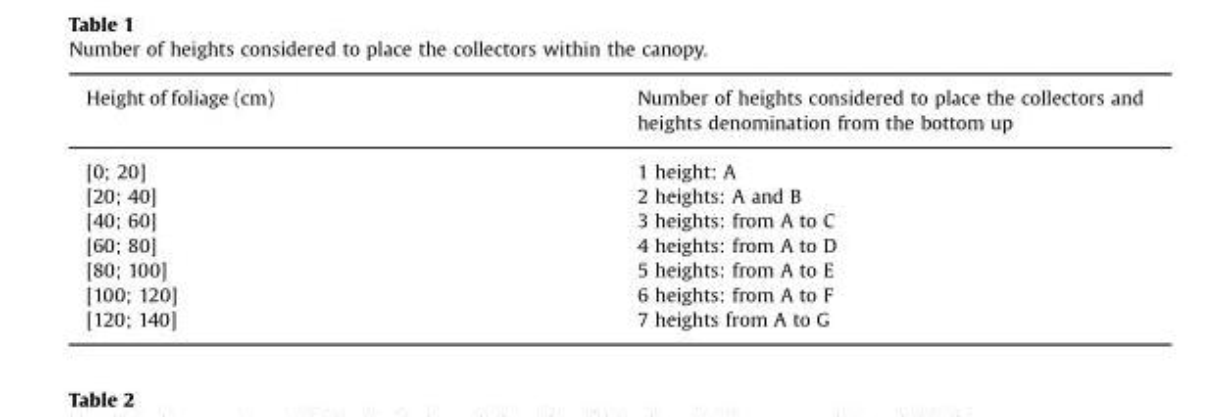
<table><thead><tr><td>Height of foliage (cm)</td><td>Number of heights considered to place the collectors and heights denomination from the bottom up</td></tr></thead><tbody><tr><td>[0; 20]</td><td>1 height: A</td></tr><tr><td>[20; 40]</td><td>2 heights: A and B</td></tr><tr><td>[40; 60]</td><td>3 heights: from A to C</td></tr><tr><td>[60; 80]</td><td>4 heights: from A to D</td></tr><tr><td>[80; 100]</td><td>5 heights: from A to E</td></tr><tr><td>[100; 120]</td><td>6 heights: from A to F</td></tr><tr><td>[120; 140]</td><td>7 heights from A to G</td></tr></tbody></table>